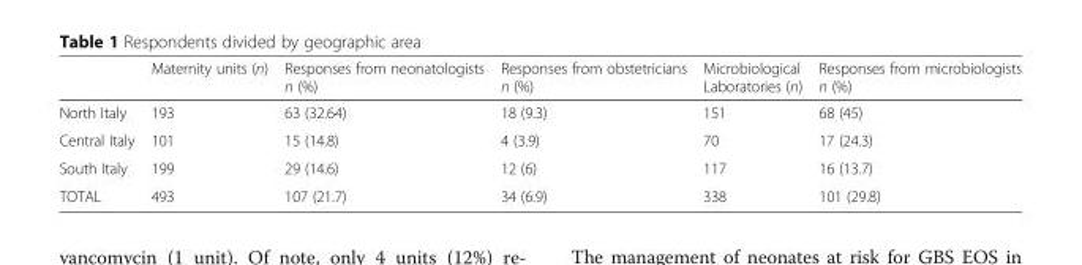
<table><thead><tr><td></td><td>Maternity units (n)</td><td>Responses from neonatologists n (%)</td><td>Responses from obstetricians n (%)</td><td>Microbiological Laboratories (n)</td><td>Responses from microbiologists n (%)</td></tr></thead><tbody><tr><td>North Italy</td><td>193</td><td>63 (32.64)</td><td>18 (9.3)</td><td>151</td><td>68 (45)</td></tr><tr><td>Central Italy</td><td>101</td><td>15 (14.8)</td><td>4 (3.9)</td><td>70</td><td>17 (24.3)</td></tr><tr><td>South Italy</td><td>199</td><td>29 (14.6)</td><td>12 (6)</td><td>117</td><td>16 (13.7)</td></tr><tr><td>TOTAL</td><td>493</td><td>107 (21.7)</td><td>34 (6.9)</td><td>338</td><td>101 (29.8)</td></tr></tbody></table>